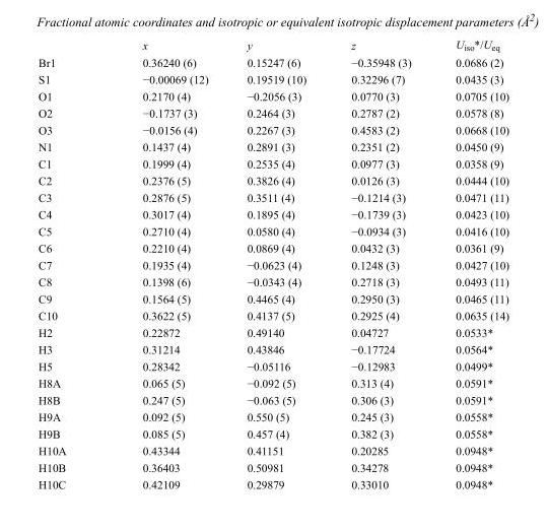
<table><thead><tr><td></td><td>x</td><td>y</td><td>z</td><td>U<sub>iso</sub>*/U<sub>eq</sub></td></tr></thead><tbody><tr><td>Br1</td><td>0.36240 (6)</td><td>0.15247 (6)</td><td>−0.35948 (3)</td><td>0.0686 (2)</td></tr><tr><td>S1</td><td>−0.00069 (12)</td><td>0.19519 (10)</td><td>0.32296 (7)</td><td>0.0435 (3)</td></tr><tr><td>O1</td><td>0.2170 (4)</td><td>−0.2056 (3)</td><td>0.0770 (3)</td><td>0.0705 (10)</td></tr><tr><td>O2</td><td>−0.1737 (3)</td><td>0.2464 (3)</td><td>0.2787 (2)</td><td>0.0578 (8)</td></tr><tr><td>O3</td><td>−0.0156 (4)</td><td>0.2267 (3)</td><td>0.4583 (2)</td><td>0.0668 (10)</td></tr><tr><td>N1</td><td>0.1437 (4)</td><td>0.2891 (3)</td><td>0.2351 (2)</td><td>0.0450 (9)</td></tr><tr><td>C1</td><td>0.1999 (4)</td><td>0.2535 (4)</td><td>0.0977 (3)</td><td>0.0358 (9)</td></tr><tr><td>C2</td><td>0.2376 (5)</td><td>0.3826 (4)</td><td>0.0126 (3)</td><td>0.0444 (10)</td></tr><tr><td>C3</td><td>0.2876 (5)</td><td>0.3511 (4)</td><td>−0.1214 (3)</td><td>0.0471 (11)</td></tr><tr><td>C4</td><td>0.3017 (4)</td><td>0.1895 (4)</td><td>−0.1739 (3)</td><td>0.0423 (10)</td></tr><tr><td>C5</td><td>0.2710 (4)</td><td>0.0580 (4)</td><td>−0.0934 (3)</td><td>0.0416 (10)</td></tr><tr><td>C6</td><td>0.2210 (4)</td><td>0.0869 (4)</td><td>0.0432 (3)</td><td>0.0361 (9)</td></tr><tr><td>C7</td><td>0.1935 (4)</td><td>−0.0623 (4)</td><td>0.1248 (3)</td><td>0.0427 (10)</td></tr><tr><td>C8</td><td>0.1398 (6)</td><td>−0.0343 (4)</td><td>0.2718 (3)</td><td>0.0493 (11)</td></tr><tr><td>C9</td><td>0.1564 (5)</td><td>0.4465 (4)</td><td>0.2950 (3)</td><td>0.0465 (11)</td></tr><tr><td>C10</td><td>0.3622 (5)</td><td>0.4137 (5)</td><td>0.2925 (4)</td><td>0.0635 (14)</td></tr><tr><td>H2</td><td>0.22872</td><td>0.49140</td><td>0.04727</td><td>0.0533*</td></tr><tr><td>H3</td><td>0.31214</td><td>0.43846</td><td>−0.17724</td><td>0.0564*</td></tr><tr><td>H5</td><td>0.28342</td><td>−0.05116</td><td>−0.12983</td><td>0.0499*</td></tr><tr><td>H8A</td><td>0.065 (5)</td><td>−0.092 (5)</td><td>0.313 (4)</td><td>0.0591*</td></tr><tr><td>H8B</td><td>0.247 (5)</td><td>−0.063 (5)</td><td>0.306 (3)</td><td>0.0591*</td></tr><tr><td>H9A</td><td>0.092 (5)</td><td>0.550 (5)</td><td>0.245 (3)</td><td>0.0558*</td></tr><tr><td>H9B</td><td>0.085 (5)</td><td>0.457 (4)</td><td>0.382 (3)</td><td>0.0558*</td></tr><tr><td>H10A</td><td>0.43344</td><td>0.41151</td><td>0.20285</td><td>0.0948*</td></tr><tr><td>H10B</td><td>0.36403</td><td>0.50981</td><td>0.34278</td><td>0.0948*</td></tr><tr><td>H10C</td><td>0.42109</td><td>0.29879</td><td>0.33010</td><td>0.0948*</td></tr></tbody></table>